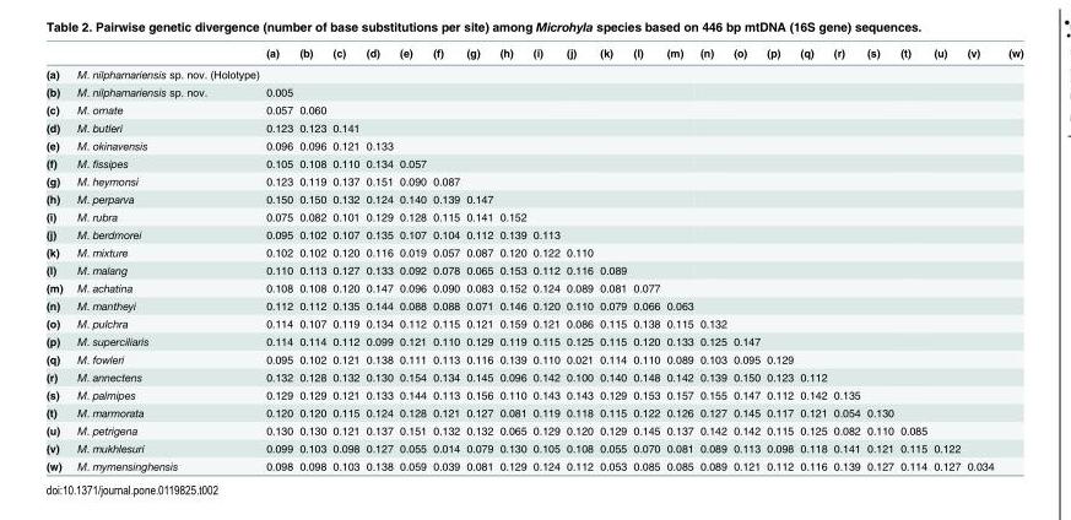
<table><thead><tr><td></td><td></td><td>(a)</td><td>(b)</td><td>(c)</td><td>(d)</td><td>(e)</td><td>(f)</td><td>(g)</td><td>(h)</td><td>(i)</td><td>(j)</td><td>(k)</td><td>(l)</td><td>(m)</td><td>(n)</td><td>(o)</td><td>(p)</td><td>(q)</td><td>(r)</td><td>(s)</td><td>(t)</td><td>(u)</td><td>(v)</td><td>(w)</td></tr></thead><tbody><tr><td>(a)</td><td>M. nilphamariensis sp. nov. (Holotype)</td><td></td><td></td><td></td><td></td><td></td><td></td><td></td><td></td><td></td><td></td><td></td><td></td><td></td><td></td><td></td><td></td><td></td><td></td><td></td><td></td><td></td><td></td><td></td></tr><tr><td>(b)</td><td>M. nilphamariensis sp. nov.</td><td>0.005</td><td></td><td></td><td></td><td></td><td></td><td></td><td></td><td></td><td></td><td></td><td></td><td></td><td></td><td></td><td></td><td></td><td></td><td></td><td></td><td></td><td></td><td></td></tr><tr><td>(c)</td><td>M. ornate</td><td>0.057</td><td>0.060</td><td></td><td></td><td></td><td></td><td></td><td></td><td></td><td></td><td></td><td></td><td></td><td></td><td></td><td></td><td></td><td></td><td></td><td></td><td></td><td></td><td></td></tr><tr><td>(d)</td><td>M. butleri</td><td>0.123</td><td>0.123</td><td>0.141</td><td></td><td></td><td></td><td></td><td></td><td></td><td></td><td></td><td></td><td></td><td></td><td></td><td></td><td></td><td></td><td></td><td></td><td></td><td></td><td></td></tr><tr><td>(e)</td><td>M. okinavensis</td><td>0.096</td><td>0.096</td><td>0.121</td><td>0.133</td><td></td><td></td><td></td><td></td><td></td><td></td><td></td><td></td><td></td><td></td><td></td><td></td><td></td><td></td><td></td><td></td><td></td><td></td><td></td></tr><tr><td>(f)</td><td>M. fissipes</td><td>0.105</td><td>0.108</td><td>0.110</td><td>0.134</td><td>0.057</td><td></td><td></td><td></td><td></td><td></td><td></td><td></td><td></td><td></td><td></td><td></td><td></td><td></td><td></td><td></td><td></td><td></td><td></td></tr><tr><td>(g)</td><td>M. heymonsi</td><td>0.123</td><td>0.119</td><td>0.137</td><td>0.151</td><td>0.090</td><td>0.087</td><td></td><td></td><td></td><td></td><td></td><td></td><td></td><td></td><td></td><td></td><td></td><td></td><td></td><td></td><td></td><td></td><td></td></tr><tr><td>(h)</td><td>M. perparva</td><td>0.150</td><td>0.150</td><td>0.132</td><td>0.124</td><td>0.140</td><td>0.139</td><td>0.147</td><td></td><td></td><td></td><td></td><td></td><td></td><td></td><td></td><td></td><td></td><td></td><td></td><td></td><td></td><td></td><td></td></tr><tr><td>(i)</td><td>M. rubra</td><td>0.075</td><td>0.082</td><td>0.101</td><td>0.129</td><td>0.128</td><td>0.115</td><td>0.141</td><td>0.152</td><td></td><td></td><td></td><td></td><td></td><td></td><td></td><td></td><td></td><td></td><td></td><td></td><td></td><td></td><td></td></tr><tr><td>(j)</td><td>M. berdmorei</td><td>0.095</td><td>0.102</td><td>0.107</td><td>0.135</td><td>0.107</td><td>0.104</td><td>0.112</td><td>0.139</td><td>0.113</td><td></td><td></td><td></td><td></td><td></td><td></td><td></td><td></td><td></td><td></td><td></td><td></td><td></td><td></td></tr><tr><td>(k)</td><td>M. mixture</td><td>0.102</td><td>0.102</td><td>0.120</td><td>0.116</td><td>0.019</td><td>0.057</td><td>0.087</td><td>0.120</td><td>0.122</td><td>0.110</td><td></td><td></td><td></td><td></td><td></td><td></td><td></td><td></td><td></td><td></td><td></td><td></td><td></td></tr><tr><td>(l)</td><td>M. malang</td><td>0.110</td><td>0.113</td><td>0.127</td><td>0.133</td><td>0.092</td><td>0.078</td><td>0.065</td><td>0.153</td><td>0.112</td><td>0.116</td><td>0.089</td><td></td><td></td><td></td><td></td><td></td><td></td><td></td><td></td><td></td><td></td><td></td><td></td></tr><tr><td>(m)</td><td>M. achatina</td><td>0.108</td><td>0.108</td><td>0.120</td><td>0.147</td><td>0.096</td><td>0.090</td><td>0.083</td><td>0.152</td><td>0.124</td><td>0.089</td><td>0.081</td><td>0.077</td><td></td><td></td><td></td><td></td><td></td><td></td><td></td><td></td><td></td><td></td><td></td></tr><tr><td>(n)</td><td>M. mantheyi</td><td>0.112</td><td>0.112</td><td>0.135</td><td>0.144</td><td>0.088</td><td>0.088</td><td>0.071</td><td>0.146</td><td>0.120</td><td>0.110</td><td>0.079</td><td>0.066</td><td>0.063</td><td></td><td></td><td></td><td></td><td></td><td></td><td></td><td></td><td></td><td></td></tr><tr><td>(o)</td><td>M. pulchra</td><td>0.114</td><td>0.107</td><td>0.119</td><td>0.134</td><td>0.112</td><td>0.115</td><td>0.121</td><td>0.159</td><td>0.121</td><td>0.086</td><td>0.115</td><td>0.138</td><td>0.115</td><td>0.132</td><td></td><td></td><td></td><td></td><td></td><td></td><td></td><td></td><td></td></tr><tr><td>(p)</td><td>M. superciliaris</td><td>0.114</td><td>0.114</td><td>0.112</td><td>0.099</td><td>0.121</td><td>0.110</td><td>0.129</td><td>0.119</td><td>0.115</td><td>0.125</td><td>0.115</td><td>0.120</td><td>0.133</td><td>0.125</td><td>0.147</td><td></td><td></td><td></td><td></td><td></td><td></td><td></td><td></td></tr><tr><td>(q)</td><td>M. fowleri</td><td>0.095</td><td>0.102</td><td>0.121</td><td>0.138</td><td>0.111</td><td>0.113</td><td>0.116</td><td>0.139</td><td>0.110</td><td>0.021</td><td>0.114</td><td>0.110</td><td>0.089</td><td>0.103</td><td>0.095</td><td>0.129</td><td></td><td></td><td></td><td></td><td></td><td></td><td></td></tr><tr><td>(r)</td><td>M. annectens</td><td>0.132</td><td>0.128</td><td>0.132</td><td>0.130</td><td>0.154</td><td>0.134</td><td>0.145</td><td>0.096</td><td>0.142</td><td>0.100</td><td>0.140</td><td>0.148</td><td>0.142</td><td>0.139</td><td>0.150</td><td>0.123</td><td>0.112</td><td></td><td></td><td></td><td></td><td></td><td></td></tr><tr><td>(s)</td><td>M. palmipes</td><td>0.129</td><td>0.129</td><td>0.121</td><td>0.133</td><td>0.144</td><td>0.113</td><td>0.156</td><td>0.110</td><td>0.143</td><td>0.143</td><td>0.129</td><td>0.153</td><td>0.157</td><td>0.155</td><td>0.147</td><td>0.112</td><td>0.142</td><td>0.135</td><td></td><td></td><td></td><td></td><td></td></tr><tr><td>(t)</td><td>M. marmorata</td><td>0.120</td><td>0.120</td><td>0.115</td><td>0.124</td><td>0.128</td><td>0.121</td><td>0.127</td><td>0.081</td><td>0.119</td><td>0.118</td><td>0.115</td><td>0.122</td><td>0.126</td><td>0.127</td><td>0.145</td><td>0.117</td><td>0.121</td><td>0.054</td><td>0.130</td><td></td><td></td><td></td><td></td></tr><tr><td>(u)</td><td>M. petrigena</td><td>0.130</td><td>0.130</td><td>0.121</td><td>0.137</td><td>0.151</td><td>0.132</td><td>0.132</td><td>0.065</td><td>0.129</td><td>0.120</td><td>0.129</td><td>0.145</td><td>0.137</td><td>0.142</td><td>0.142</td><td>0.115</td><td>0.125</td><td>0.082</td><td>0.110</td><td>0.085</td><td></td><td></td><td></td></tr><tr><td>(v)</td><td>M. mukhlesuri</td><td>0.099</td><td>0.103</td><td>0.098</td><td>0.127</td><td>0.055</td><td>0.014</td><td>0.079</td><td>0.130</td><td>0.105</td><td>0.108</td><td>0.055</td><td>0.070</td><td>0.081</td><td>0.089</td><td>0.113</td><td>0.098</td><td>0.118</td><td>0.141</td><td>0.121</td><td>0.115</td><td>0.122</td><td></td><td></td></tr><tr><td>(w)</td><td>M. mymensinghensis</td><td>0.098</td><td>0.098</td><td>0.103</td><td>0.138</td><td>0.059</td><td>0.039</td><td>0.081</td><td>0.129</td><td>0.124</td><td>0.112</td><td>0.053</td><td>0.085</td><td>0.085</td><td>0.089</td><td>0.121</td><td>0.112</td><td>0.116</td><td>0.139</td><td>0.127</td><td>0.114</td><td>0.127</td><td>0.034</td><td></td></tr></tbody></table>